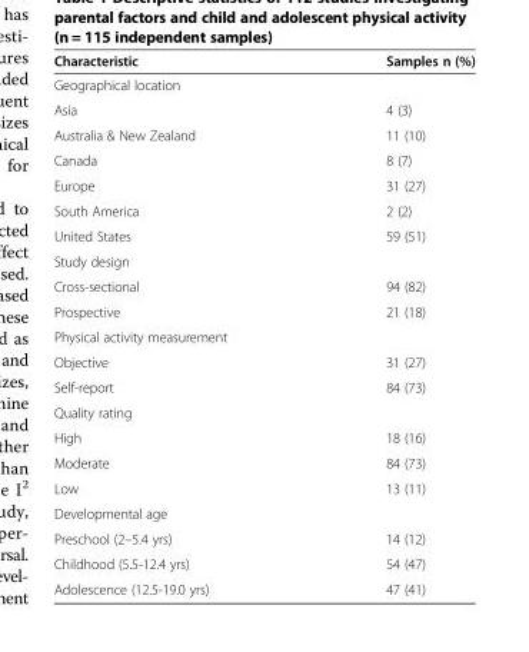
<table><thead><tr><td>Characteristic</td><td>Samples n (%)</td></tr></thead><tbody><tr><td colspan="2">Geographical location</td></tr><tr><td>Asia</td><td>4 (3)</td></tr><tr><td>Australia &amp; New Zealand</td><td>11 (10)</td></tr><tr><td>Canada</td><td>8 (7)</td></tr><tr><td>Europe</td><td>31 (27)</td></tr><tr><td>South America</td><td>2 (2)</td></tr><tr><td>United States</td><td>59 (51)</td></tr><tr><td colspan="2">Study design</td></tr><tr><td>Cross-sectional</td><td>94 (82)</td></tr><tr><td>Prospective</td><td>21 (18)</td></tr><tr><td colspan="2">Physical activity measurement</td></tr><tr><td>Objective</td><td>31 (27)</td></tr><tr><td>Self-report</td><td>84 (73)</td></tr><tr><td colspan="2">Quality rating</td></tr><tr><td>High</td><td>18 (16)</td></tr><tr><td>Moderate</td><td>84 (73)</td></tr><tr><td>Low</td><td>13 (11)</td></tr><tr><td colspan="2">Developmental age</td></tr><tr><td>Preschool (2–5.4 yrs)</td><td>14 (12)</td></tr><tr><td>Childhood (5.5-12.4 yrs)</td><td>54 (47)</td></tr><tr><td>Adolescence (12.5-19.0 yrs)</td><td>47 (41)</td></tr></tbody></table>